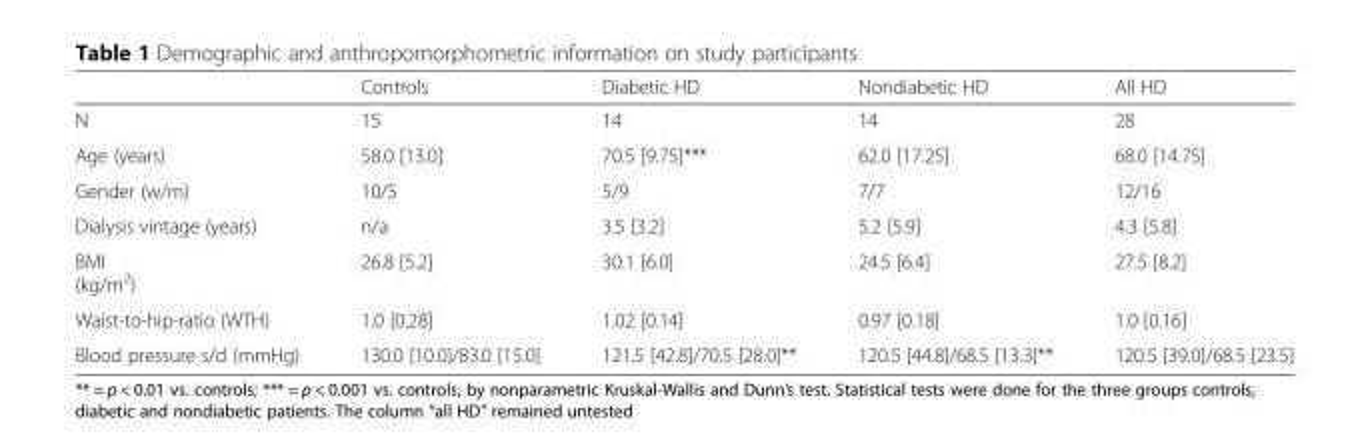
<table><thead><tr><td></td><td>Controls</td><td>Diabetic HD</td><td>Nondiabetic HD</td><td>All HD</td></tr></thead><tbody><tr><td>N</td><td>15</td><td>14</td><td>14</td><td>28</td></tr><tr><td>Age (years)</td><td>58.0 [13.0]</td><td>70.5 [9.75]***</td><td>62.0 [17.25]</td><td>68.0 [14.75]</td></tr><tr><td>Gender (w/m)</td><td>10/5</td><td>5/9</td><td>7/7</td><td>12/16</td></tr><tr><td>Dialysis vintage (years)</td><td>n/a</td><td>3.5 [3.2]</td><td>5.2 [5.9]</td><td>4.3 [5.8]</td></tr><tr><td>BMI (kg/m<sup>2</sup>)</td><td>26.8 [5.2]</td><td>30.1 [6.0]</td><td>24.5 [6.4]</td><td>27.5 [8.2]</td></tr><tr><td>Waist-to-hip-ratio (WTH)</td><td>1.0 [0.28]</td><td>1.02 [0.14]</td><td>0.97 [0.18]</td><td>1.0 [0.16]</td></tr><tr><td>Blood pressure s/d (mmHg)</td><td>130.0 [10.0]/83.0 [15.0]</td><td>121.5 [42.8]/70.5 [28.0]**</td><td>120.5 [44.8]/68.5 [13.3]**</td><td>120.5 [39.0]/68.5 [23.5]</td></tr></tbody></table>